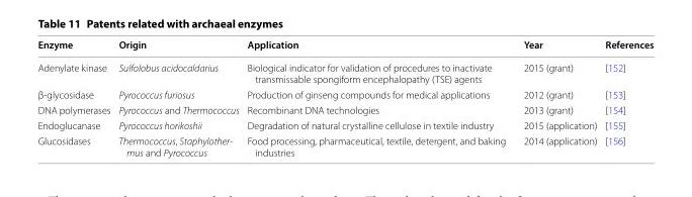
<table><thead><tr><td>Enzyme</td><td>Origin</td><td>Application</td><td>Year</td><td>References</td></tr></thead><tbody><tr><td>Adenylate kinase</td><td>Sulfolobus acidocaldarius</td><td>Biological indicator for validation of procedures to inactivate transmissable spongiform encephalopathy (TSE) agents</td><td>2015 (grant)</td><td>[152]</td></tr><tr><td>β-glycosidase</td><td>Pyrococcus furiosus</td><td>Production of ginseng compounds for medical applications</td><td>2012 (grant)</td><td>[153]</td></tr><tr><td>DNA polymerases</td><td>Pyrococcus and Thermococcus</td><td>Recombinant DNA technologies</td><td>2013 (grant)</td><td>[154]</td></tr><tr><td>Endoglucanase</td><td>Pyrococcus horikoshii</td><td>Degradation of natural crystalline cellulose in textile industry</td><td>2015 (application)</td><td>[155]</td></tr><tr><td>Glucosidases</td><td>Thermococcus, Staphylother- mus and Pyrococcus</td><td>Food processing, pharmaceutical, textile, detergent, and baking industries</td><td>2014 (application)</td><td>[156]</td></tr></tbody></table>